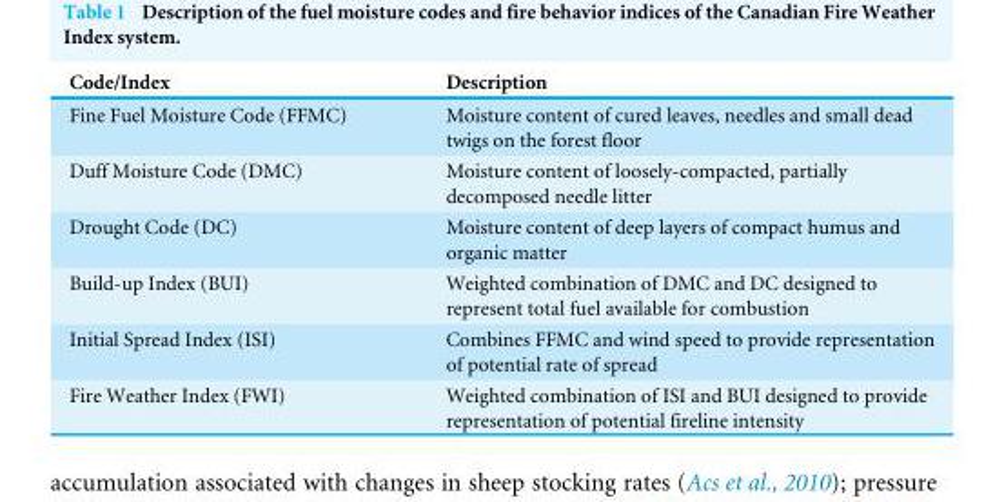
<table><thead><tr><td>Code/Index</td><td>Description</td></tr></thead><tbody><tr><td>Fine Fuel Moisture Code (FFMC)</td><td>Moisture content of cured leaves, needles and small dead twigs on the forest floor</td></tr><tr><td>Duff Moisture Code (DMC)</td><td>Moisture content of loosely-compacted, partially decomposed needle litter</td></tr><tr><td>Drought Code (DC)</td><td>Moisture content of deep layers of compact humus and organic matter</td></tr><tr><td>Build-up Index (BUI)</td><td>Weighted combination of DMC and DC designed to represent total fuel available for combustion</td></tr><tr><td>Initial Spread Index (ISI)</td><td>Combines FFMC and wind speed to provide representation of potential rate of spread</td></tr><tr><td>Fire Weather Index (FWI)</td><td>Weighted combination of ISI and BUI designed to provide representation of potential fireline intensity</td></tr></tbody></table>